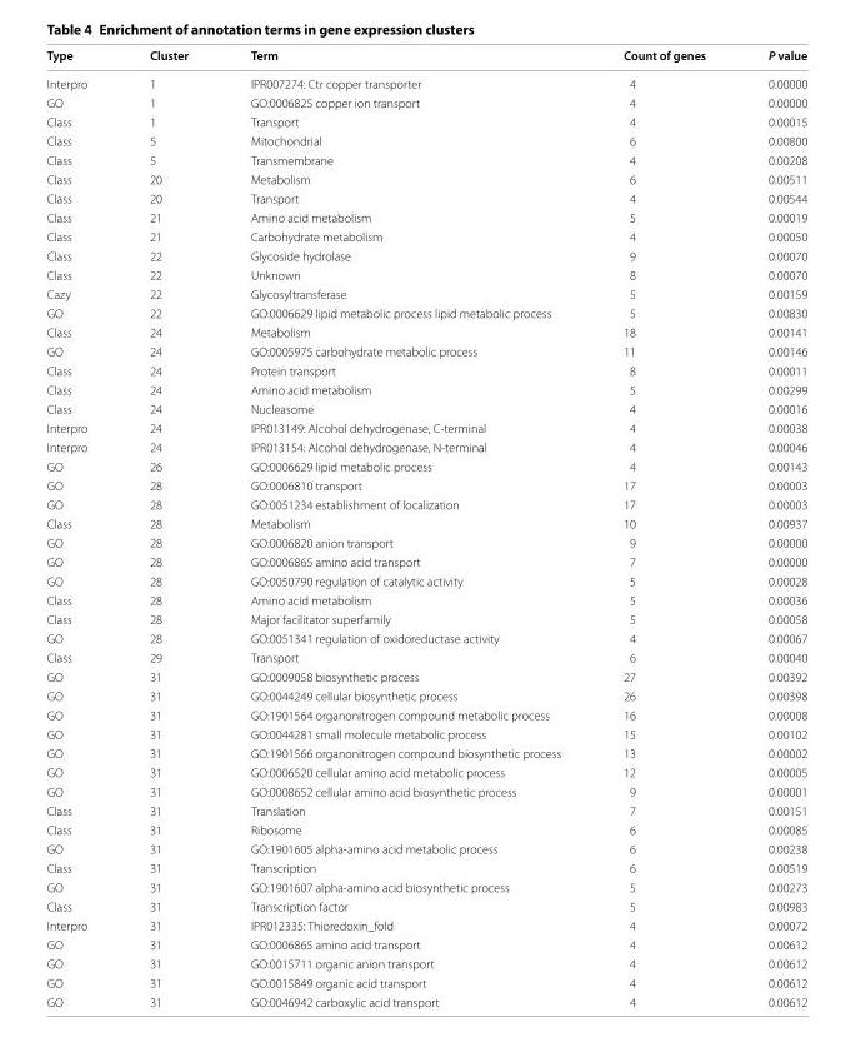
<table><thead><tr><td>Type</td><td>Cluster</td><td>Term</td><td>Count of genes</td><td>P value</td></tr></thead><tbody><tr><td>Interpro</td><td>1</td><td>IPR007274: Ctr copper transporter</td><td>4</td><td>0.00000</td></tr><tr><td>GO</td><td>1</td><td>GO:0006825 copper ion transport</td><td>4</td><td>0.00000</td></tr><tr><td>Class</td><td>1</td><td>Transport</td><td>4</td><td>0.00015</td></tr><tr><td>Class</td><td>5</td><td>Mitochondrial</td><td>6</td><td>0.00800</td></tr><tr><td>Class</td><td>5</td><td>Transmembrane</td><td>4</td><td>0.00208</td></tr><tr><td>Class</td><td>20</td><td>Metabolism</td><td>6</td><td>0.00511</td></tr><tr><td>Class</td><td>20</td><td>Transport</td><td>4</td><td>0.00544</td></tr><tr><td>Class</td><td>21</td><td>Amino acid metabolism</td><td>5</td><td>0.00019</td></tr><tr><td>Class</td><td>21</td><td>Carbohydrate metabolism</td><td>4</td><td>0.00050</td></tr><tr><td>Class</td><td>22</td><td>Glycoside hydrolase</td><td>9</td><td>0.00070</td></tr><tr><td>Class</td><td>22</td><td>Unknown</td><td>8</td><td>0.00070</td></tr><tr><td>Cazy</td><td>22</td><td>Glycosyltransferase</td><td>5</td><td>0.00159</td></tr><tr><td>GO</td><td>22</td><td>GO:0006629 lipid metabolic process lipid metabolic process</td><td>5</td><td>0.00830</td></tr><tr><td>Class</td><td>24</td><td>Metabolism</td><td>18</td><td>0.00141</td></tr><tr><td>GO</td><td>24</td><td>GO:0005975 carbohydrate metabolic process</td><td>11</td><td>0.00146</td></tr><tr><td>Class</td><td>24</td><td>Protein transport</td><td>8</td><td>0.00011</td></tr><tr><td>Class</td><td>24</td><td>Amino acid metabolism</td><td>5</td><td>0.00299</td></tr><tr><td>Class</td><td>24</td><td>Nucleasome</td><td>4</td><td>0.00016</td></tr><tr><td>Interpro</td><td>24</td><td>IPR013149: Alcohol dehydrogenase, C-terminal</td><td>4</td><td>0.00038</td></tr><tr><td>Interpro</td><td>24</td><td>IPR013154: Alcohol dehydrogenase, N-terminal</td><td>4</td><td>0.00046</td></tr><tr><td>GO</td><td>26</td><td>GO:0006629 lipid metabolic process</td><td>4</td><td>0.00143</td></tr><tr><td>GO</td><td>28</td><td>GO:0006810 transport</td><td>17</td><td>0.00003</td></tr><tr><td>GO</td><td>28</td><td>GO:0051234 establishment of localization</td><td>17</td><td>0.00003</td></tr><tr><td>Class</td><td>28</td><td>Metabolism</td><td>10</td><td>0.00937</td></tr><tr><td>GO</td><td>28</td><td>GO:0006820 anion transport</td><td>9</td><td>0.00000</td></tr><tr><td>GO</td><td>28</td><td>GO:0006865 amino acid transport</td><td>7</td><td>0.00000</td></tr><tr><td>GO</td><td>28</td><td>GO:0050790 regulation of catalytic activity</td><td>5</td><td>0.00028</td></tr><tr><td>Class</td><td>28</td><td>Amino acid metabolism</td><td>5</td><td>0.00036</td></tr><tr><td>Class</td><td>28</td><td>Major facilitator superfamily</td><td>5</td><td>0.00058</td></tr><tr><td>GO</td><td>28</td><td>GO:0051341 regulation of oxidoreductase activity</td><td>4</td><td>0.00067</td></tr><tr><td>Class</td><td>29</td><td>Transport</td><td>6</td><td>0.00040</td></tr><tr><td>GO</td><td>31</td><td>GO:0009058 biosynthetic process</td><td>27</td><td>0.00392</td></tr><tr><td>GO</td><td>31</td><td>GO:0044249 cellular biosynthetic process</td><td>26</td><td>0.00398</td></tr><tr><td>GO</td><td>31</td><td>GO:1901564 organonitrogen compound metabolic process</td><td>16</td><td>0.00008</td></tr><tr><td>GO</td><td>31</td><td>GO:0044281 small molecule metabolic process</td><td>15</td><td>0.00102</td></tr><tr><td>GO</td><td>31</td><td>GO:1901566 organonitrogen compound biosynthetic process</td><td>13</td><td>0.00002</td></tr><tr><td>GO</td><td>31</td><td>GO:0006520 cellular amino acid metabolic process</td><td>12</td><td>0.00005</td></tr><tr><td>GO</td><td>31</td><td>GO:0008652 cellular amino acid biosynthetic process</td><td>9</td><td>0.00001</td></tr><tr><td>Class</td><td>31</td><td>Translation</td><td>7</td><td>0.00151</td></tr><tr><td>Class</td><td>31</td><td>Ribosome</td><td>6</td><td>0.00085</td></tr><tr><td>GO</td><td>31</td><td>GO:1901605 alpha-amino acid metabolic process</td><td>6</td><td>0.00238</td></tr><tr><td>Class</td><td>31</td><td>Transcription</td><td>6</td><td>0.00519</td></tr><tr><td>GO</td><td>31</td><td>GO:1901607 alpha-amino acid biosynthetic process</td><td>5</td><td>0.00273</td></tr><tr><td>Class</td><td>31</td><td>Transcription factor</td><td>5</td><td>0.00983</td></tr><tr><td>Interpro</td><td>31</td><td>IPR012335: Thioredoxin_fold</td><td>4</td><td>0.00072</td></tr><tr><td>GO</td><td>31</td><td>GO:0006865 amino acid transport</td><td>4</td><td>0.00612</td></tr><tr><td>GO</td><td>31</td><td>GO:0015711 organic anion transport</td><td>4</td><td>0.00612</td></tr><tr><td>GO</td><td>31</td><td>GO:0015849 organic acid transport</td><td>4</td><td>0.00612</td></tr><tr><td>GO</td><td>31</td><td>GO:0046942 carboxylic acid transport</td><td>4</td><td>0.00612</td></tr></tbody></table>